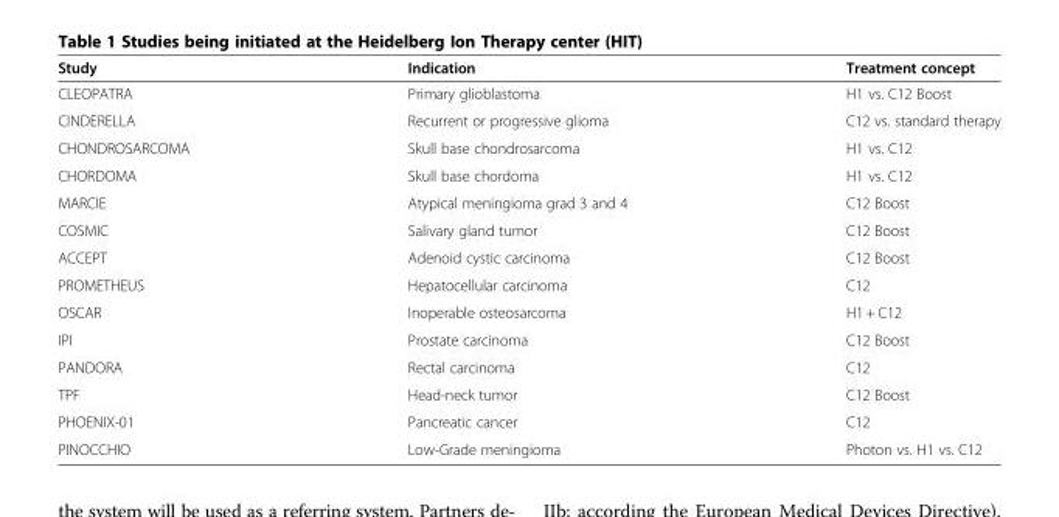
<table><thead><tr><td>Study</td><td>Indication</td><td>Treatment concept</td></tr></thead><tbody><tr><td>CLEOPATRA</td><td>Primary glioblastoma</td><td>H1 vs. C12 Boost</td></tr><tr><td>CINDERELLA</td><td>Recurrent or progressive glioma</td><td>C12 vs. standard therapy</td></tr><tr><td>CHONDROSARCOMA</td><td>Skull base chondrosarcoma</td><td>H1 vs. C12</td></tr><tr><td>CHORDOMA</td><td>Skull base chordoma</td><td>H1 vs. C12</td></tr><tr><td>MARCIE</td><td>Atypical meningioma grad 3 and 4</td><td>C12 Boost</td></tr><tr><td>COSMIC</td><td>Salivary gland tumor</td><td>C12 Boost</td></tr><tr><td>ACCEPT</td><td>Adenoid cystic carcinoma</td><td>C12 Boost</td></tr><tr><td>PROMETHEUS</td><td>Hepatocellular carcinoma</td><td>C12</td></tr><tr><td>OSCAR</td><td>Inoperable osteosarcoma</td><td>H1 + C12</td></tr><tr><td>IPI</td><td>Prostate carcinoma</td><td>C12 Boost</td></tr><tr><td>PANDORA</td><td>Rectal carcinoma</td><td>C12</td></tr><tr><td>TPF</td><td>Head-neck tumor</td><td>C12 Boost</td></tr><tr><td>PHOENIX-01</td><td>Pancreatic cancer</td><td>C12</td></tr><tr><td>PINOCCHIO</td><td>Low-Grade meningioma</td><td>Photon vs. H1 vs. C12</td></tr></tbody></table>